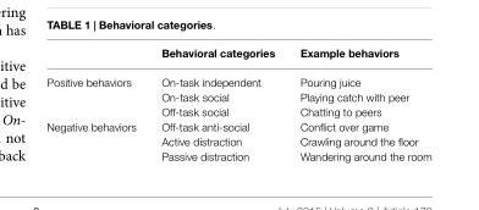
<table><thead><tr><td></td><td>Behavioral categories</td><td>Example behaviors</td></tr></thead><tbody><tr><td rowspan="3">Positive behaviors</td><td>On-task independent</td><td>Pouring juice</td></tr><tr><td>On-task social</td><td>Playing catch with peer</td></tr><tr><td>Off-task social</td><td>Chatting to peers</td></tr><tr><td rowspan="3">Negative behaviors</td><td>Off-task anti-social</td><td>Conflict over game</td></tr><tr><td>Active distraction</td><td>Crawling around the floor</td></tr><tr><td>Passive distraction</td><td>Wandering around the room</td></tr></tbody></table>